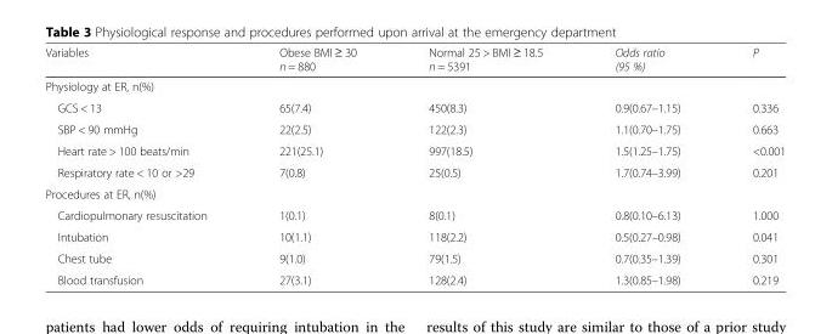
<table><thead><tr><td>Variables</td><td>Obese BMI ≥ 30 n = 880</td><td>Normal 25 &gt; BMI ≥ 18.5 n = 5391</td><td>Odds ratio (95 %)</td><td>P</td></tr></thead><tbody><tr><td colspan="5">Physiology at ER, n(%)</td></tr><tr><td>GCS &lt; 13</td><td>65(7.4)</td><td>450(8.3)</td><td>0.9(0.67–1.15)</td><td>0.336</td></tr><tr><td>SBP &lt; 90 mmHg</td><td>22(2.5)</td><td>122(2.3)</td><td>1.1(0.70–1.75)</td><td>0.663</td></tr><tr><td>Heart rate &gt; 100 beats/min</td><td>221(25.1)</td><td>997(18.5)</td><td>1.5(1.25–1.75)</td><td>&lt;0.001</td></tr><tr><td>Respiratory rate &lt; 10 or &gt;29</td><td>7(0.8)</td><td>25(0.5)</td><td>1.7(0.74–3.99)</td><td>0.201</td></tr><tr><td colspan="5">Procedures at ER, n(%)</td></tr><tr><td>Cardiopulmonary resuscitation</td><td>1(0.1)</td><td>8(0.1)</td><td>0.8(0.10–6.13)</td><td>1.000</td></tr><tr><td>Intubation</td><td>10(1.1)</td><td>118(2.2)</td><td>0.5(0.27–0.98)</td><td>0.041</td></tr><tr><td>Chest tube</td><td>9(1.0)</td><td>79(1.5)</td><td>0.7(0.35–1.39)</td><td>0.301</td></tr><tr><td>Blood transfusion</td><td>27(3.1)</td><td>128(2.4)</td><td>1.3(0.85–1.98)</td><td>0.219</td></tr></tbody></table>